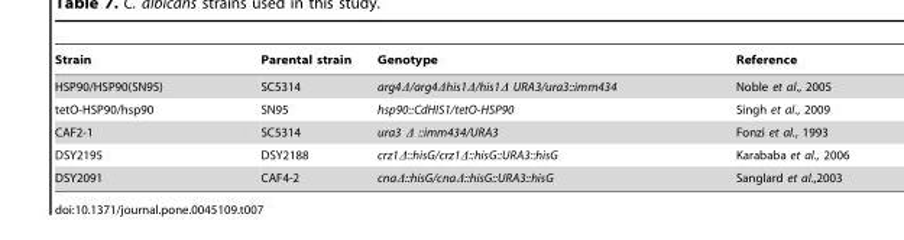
<table><thead><tr><td>Strain</td><td>Parental strain</td><td>Genotype</td><td>Reference</td></tr></thead><tbody><tr><td>HSP90/HSP90(SN95)</td><td>SC5314</td><td>arg4Δ/arg4Δhis1Δ/his1Δ URA3/ura3::imm434</td><td>Noble et al., 2005</td></tr><tr><td>tetO-HSP90/hsp90</td><td>SN95</td><td>hsp90::CdHIS1/tetO-HSP90</td><td>Singh et al., 2009</td></tr><tr><td>CAF2-1</td><td>SC5314</td><td>ura3 Δ ::imm434/URA3</td><td>Fonzi et al., 1993</td></tr><tr><td>DSY2195</td><td>DSY2188</td><td>crz1Δ::hisG/crz1Δ::hisG::URA3::hisG</td><td>Karababa et al., 2006</td></tr><tr><td>DSY2091</td><td>CAF4-2</td><td>cnaΔ::hisG/cnaΔ::hisG::URA3::hisG</td><td>Sanglard et al.,2003</td></tr></tbody></table>